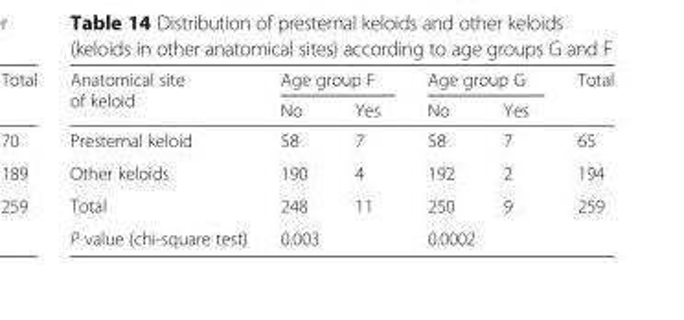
<table><thead><tr><td rowspan="2">Anatomical site of keloid</td><td colspan="2">Age group F</td><td colspan="2">Age group G</td><td rowspan="2">Total</td></tr><tr><td>No</td><td>Yes</td><td>No</td><td>Yes</td></tr></thead><tbody><tr><td>Presternal keloid</td><td>58</td><td>7</td><td>58</td><td>7</td><td>65</td></tr><tr><td>Other keloids</td><td>190</td><td>4</td><td>192</td><td>2</td><td>194</td></tr><tr><td>Total</td><td>248</td><td>11</td><td>250</td><td>9</td><td>259</td></tr><tr><td>P value (chi-square test)</td><td colspan="2">0.003</td><td colspan="2">0.0002</td><td></td></tr></tbody></table>